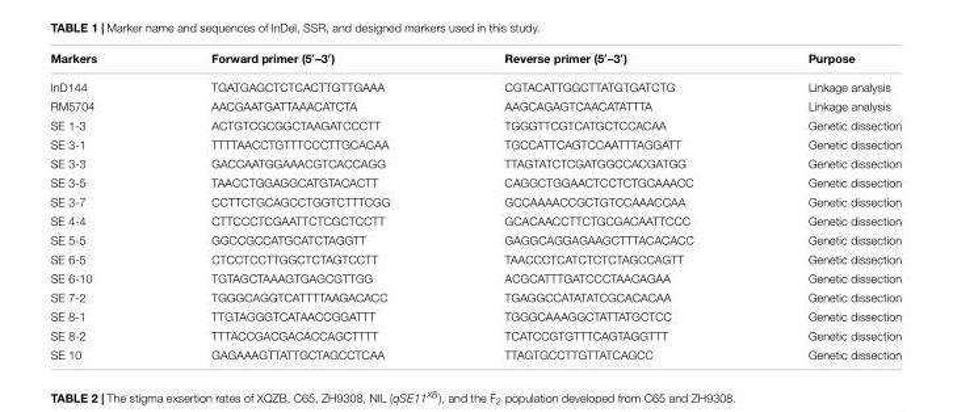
<table><thead><tr><td>Markers</td><td>Forward primer (5′–3′)</td><td>Reverse primer (5′–3′)</td><td>Purpose</td></tr></thead><tbody><tr><td>InD144</td><td>TGATGAGCTCTCACTTGTTGAAA</td><td>CGTACATTGGCTTATGTGATCTG</td><td>Linkage analysis</td></tr><tr><td>RM5704</td><td>AACGAATGATTAAACATCTA</td><td>AAGCAGAGTCAACATATTTA</td><td>Linkage analysis</td></tr><tr><td>SE 1-3</td><td>ACTGTCGCGGCTAAGATCCCTT</td><td>TGGGTTCGTCATGCTCCACAA</td><td>Genetic dissection</td></tr><tr><td>SE 3-1</td><td>TTTTAACCTGTTTCCCTTGCACAA</td><td>TGCCATTCAGTCCAATTTAGGATT</td><td>Genetic dissection</td></tr><tr><td>SE 3-3</td><td>GACCAATGGAAACGTCACCAGG</td><td>TTAGTATCTCGATGGCCACGATGG</td><td>Genetic dissection</td></tr><tr><td>SE 3-5</td><td>TAACCTGGAGGCATGTACACTT</td><td>CAGGCTGGAACTCCTCTGCAAACC</td><td>Genetic dissection</td></tr><tr><td>SE 3-7</td><td>CCTTCTGCAGCCTGGTCTTTCGG</td><td>GCCAAAACCGCTGTCCAAACCAA</td><td>Genetic dissection</td></tr><tr><td>SE 4-4</td><td>CTTCCCTCGAATTCTCGCTCCTT</td><td>GCACAACCTTCTGCGACAATTCCC</td><td>Genetic dissection</td></tr><tr><td>SE 5-5</td><td>GGCCGCCATGCATCTAGGTT</td><td>GAGGCAGGAGAAGCTTTACACACC</td><td>Genetic dissection</td></tr><tr><td>SE 6-5</td><td>CTCCTCCTTGGCTCTAGTCCTT</td><td>TAACCCTCATCTCTCTAGCCAGTT</td><td>Genetic dissection</td></tr><tr><td>SE 6-10</td><td>TGTAGCTAAAGTGAGCGTTGG</td><td>ACGCATTTGATCCCTAACAGAA</td><td>Genetic dissection</td></tr><tr><td>SE 7-2</td><td>TGGGCAGGTCATTTTAAGACACC</td><td>TGAGGCCATATATCGCACACAA</td><td>Genetic dissection</td></tr><tr><td>SE 8-1</td><td>TTGTAGGGTCATAACCGGATTT</td><td>TGGGCAAAGGCTATTATGCTCC</td><td>Genetic dissection</td></tr><tr><td>SE 8-2</td><td>TTTACCGACGACACCAGCTTTT</td><td>TCATCCGTGTTTCAGTAGGTTT</td><td>Genetic dissection</td></tr><tr><td>SE 10</td><td>GAGAAAGTTATTGCTAGCCTCAA</td><td>TTAGTGCCTTGTTATCAGCC</td><td>Genetic dissection</td></tr></tbody></table>